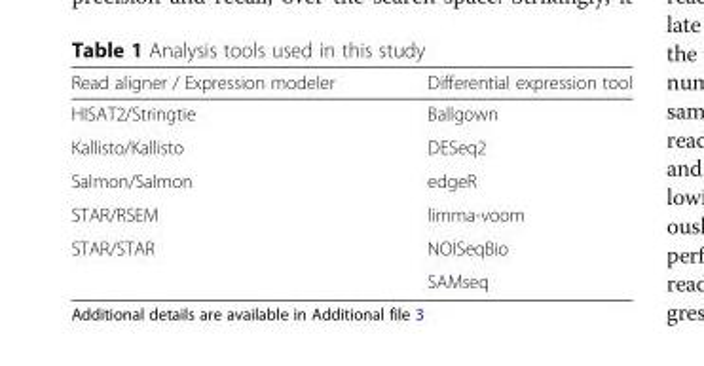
<table><thead><tr><td>Read aligner / Expression modeler</td><td>Differential expression tool</td></tr></thead><tbody><tr><td>HISAT2/Stringtie</td><td>Ballgown</td></tr><tr><td>Kallisto/Kallisto</td><td>DESeq2</td></tr><tr><td>Salmon/Salmon</td><td>edgeR</td></tr><tr><td>STAR/RSEM</td><td>limma-voom</td></tr><tr><td rowspan="2">STAR/STAR</td><td>NOISeqBio</td></tr><tr><td>SAMseq</td></tr></tbody></table>